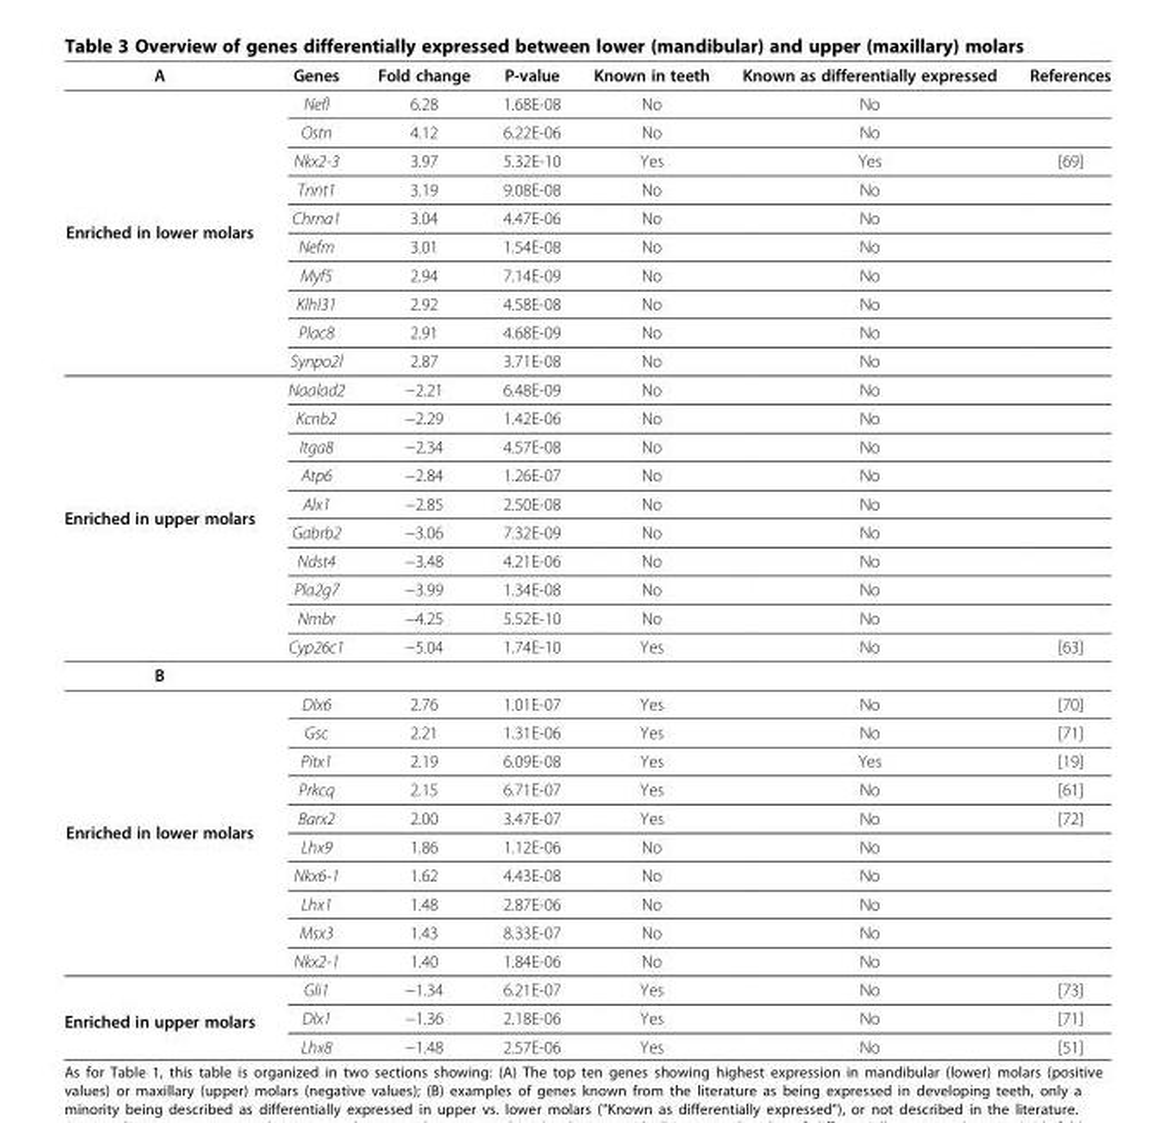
<table><thead><tr><td>A</td><td>Genes</td><td>Fold change</td><td>P-value</td><td>Known in teeth</td><td>Known as differentially expressed</td><td>References</td></tr></thead><tbody><tr><td rowspan="10">Enriched in lower molars</td><td>Nefl</td><td>6.28</td><td>1.68E-08</td><td>No</td><td>No</td><td></td></tr><tr><td>Ostn</td><td>4.12</td><td>6.22E-06</td><td>No</td><td>No</td><td></td></tr><tr><td>Nkx2-3</td><td>3.97</td><td>5.32E-10</td><td>Yes</td><td>Yes</td><td>[69]</td></tr><tr><td>Tnnt1</td><td>3.19</td><td>9.08E-08</td><td>No</td><td>No</td><td></td></tr><tr><td>Chrna1</td><td>3.04</td><td>4.47E-06</td><td>No</td><td>No</td><td></td></tr><tr><td>Nefm</td><td>3.01</td><td>1.54E-08</td><td>No</td><td>No</td><td></td></tr><tr><td>Myf5</td><td>2.94</td><td>7.14E-09</td><td>No</td><td>No</td><td></td></tr><tr><td>Klhl31</td><td>2.92</td><td>4.58E-08</td><td>No</td><td>No</td><td></td></tr><tr><td>Plac8</td><td>2.91</td><td>4.68E-09</td><td>No</td><td>No</td><td></td></tr><tr><td>Synpo2l</td><td>2.87</td><td>3.71E-08</td><td>No</td><td>No</td><td></td></tr><tr><td rowspan="10">Enriched in upper molars</td><td>Naalad2</td><td>−2.21</td><td>6.48E-09</td><td>No</td><td>No</td><td></td></tr><tr><td>Kcnb2</td><td>−2.29</td><td>1.42E-06</td><td>No</td><td>No</td><td></td></tr><tr><td>Itga8</td><td>−2.34</td><td>4.57E-08</td><td>No</td><td>No</td><td></td></tr><tr><td>Atp6</td><td>−2.84</td><td>1.26E-07</td><td>No</td><td>No</td><td></td></tr><tr><td>Alx1</td><td>−2.85</td><td>2.50E-08</td><td>No</td><td>No</td><td></td></tr><tr><td>Gabrb2</td><td>−3.06</td><td>7.32E-09</td><td>No</td><td>No</td><td></td></tr><tr><td>Ndst4</td><td>−3.48</td><td>4.21E-06</td><td>No</td><td>No</td><td></td></tr><tr><td>Pla2g7</td><td>−3.99</td><td>1.34E-08</td><td>No</td><td>No</td><td></td></tr><tr><td>Nmbr</td><td>−4.25</td><td>5.52E-10</td><td>No</td><td>No</td><td></td></tr><tr><td>Cyp26c1</td><td>−5.04</td><td>1.74E-10</td><td>Yes</td><td>No</td><td>[63]</td></tr><tr><td colspan="7">B</td></tr><tr><td rowspan="10">Enriched in lower molars</td><td>Dlx6</td><td>2.76</td><td>1.01E-07</td><td>Yes</td><td>No</td><td>[70]</td></tr><tr><td>Gsc</td><td>2.21</td><td>1.31E-06</td><td>Yes</td><td>No</td><td>[71]</td></tr><tr><td>Pitx1</td><td>2.19</td><td>6.09E-08</td><td>Yes</td><td>Yes</td><td>[19]</td></tr><tr><td>Prkcq</td><td>2.15</td><td>6.71E-07</td><td>Yes</td><td>No</td><td>[61]</td></tr><tr><td>Barx2</td><td>2.00</td><td>3.47E-07</td><td>Yes</td><td>No</td><td>[72]</td></tr><tr><td>Lhx9</td><td>1.86</td><td>1.12E-06</td><td>No</td><td>No</td><td></td></tr><tr><td>Nkx6-1</td><td>1.62</td><td>4.43E-08</td><td>No</td><td>No</td><td></td></tr><tr><td>Lhx1</td><td>1.48</td><td>2.87E-06</td><td>No</td><td>No</td><td></td></tr><tr><td>Msx3</td><td>1.43</td><td>8.33E-07</td><td>No</td><td>No</td><td></td></tr><tr><td>Nkx2-1</td><td>1.40</td><td>1.84E-06</td><td>No</td><td>No</td><td></td></tr><tr><td rowspan="3">Enriched in upper molars</td><td>Gli1</td><td>−1.34</td><td>6.21E-07</td><td>Yes</td><td>No</td><td>[73]</td></tr><tr><td>Dlx1</td><td>−1.36</td><td>2.18E-06</td><td>Yes</td><td>No</td><td>[71]</td></tr><tr><td>Lhx8</td><td>−1.48</td><td>2.57E-06</td><td>Yes</td><td>No</td><td>[51]</td></tr></tbody></table>